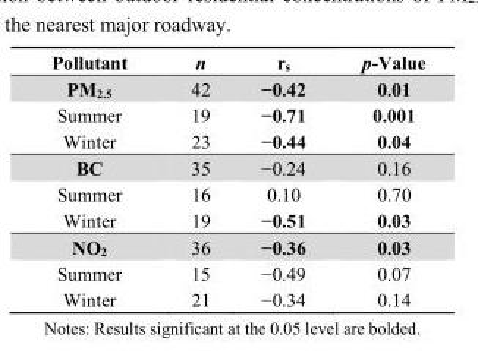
<table><thead><tr><td>Pollutant</td><td>n</td><td>r<sub>s</sub></td><td>p-Value</td></tr></thead><tbody><tr><td>PM<sub>2.5</sub></td><td>42</td><td>−0.42</td><td>0.01</td></tr><tr><td>Summer</td><td>19</td><td>−0.71</td><td>0.001</td></tr><tr><td>Winter</td><td>23</td><td>−0.44</td><td>0.04</td></tr><tr><td>BC</td><td>35</td><td>−0.24</td><td>0.16</td></tr><tr><td>Summer</td><td>16</td><td>0.10</td><td>0.70</td></tr><tr><td>Winter</td><td>19</td><td>−0.51</td><td>0.03</td></tr><tr><td>NO<sub>2</sub></td><td>36</td><td>−0.36</td><td>0.03</td></tr><tr><td>Summer</td><td>15</td><td>−0.49</td><td>0.07</td></tr><tr><td>Winter</td><td>21</td><td>−0.34</td><td>0.14</td></tr></tbody></table>